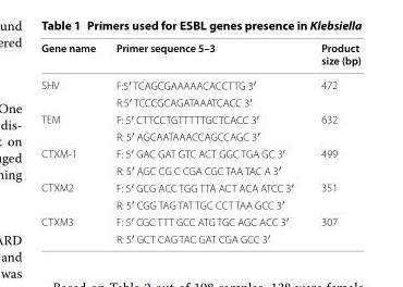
<table><thead><tr><td>Gene name</td><td>Primer sequence 5–3</td><td>Product size (bp)</td></tr></thead><tbody><tr><td rowspan="2">SHV</td><td>F:5′ TCAGCGAAAAACACCTTG 3′</td><td rowspan="2">472</td></tr><tr><td>R:5′ TCCCGCAGATAAATCACC 3′</td></tr><tr><td rowspan="2">TEM</td><td>F: 5′ CTTCCTGTTTTTGCTCACC 3′</td><td rowspan="2">632</td></tr><tr><td>R: 5′ AGCAATAAACCAGCCAGC 3′</td></tr><tr><td rowspan="2">CTXM-1</td><td>F: 5′ GAC GAT GTC ACT GGC TGA GC 3′</td><td rowspan="2">499</td></tr><tr><td>R: 5′ AGC CG C CGA CGC TAA TAC A 3′</td></tr><tr><td rowspan="2">CTXM2</td><td>F: 5′ GCG ACC TGG TTA ACT ACA ATCC 3′</td><td rowspan="2">351</td></tr><tr><td>R: 5′ CGG TAG TAT TGC CCT TAA GCC 3′</td></tr><tr><td rowspan="2">CTXM3</td><td>F: 5′ CGC TTT GCC ATG TGC AGC ACC 3′</td><td rowspan="2">307</td></tr><tr><td>R: 5′ GCT CAG TAC GAT CGA GCC 3′</td></tr></tbody></table>